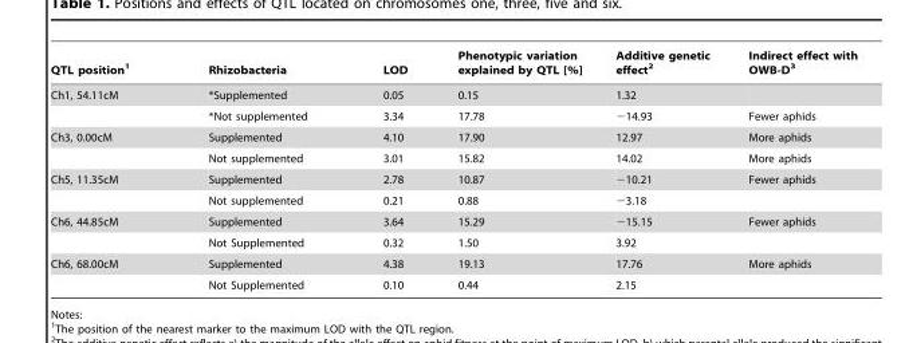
<table><thead><tr><td>QTL position<sup>1</sup></td><td>Rhizobacteria</td><td>LOD</td><td>Phenotypic variation explained by QTL [%]</td><td>Additive genetic effect<sup>2</sup></td><td>Indirect effect with OWB-D<sup>3</sup></td></tr></thead><tbody><tr><td rowspan="2">Ch1, 54.11cM</td><td>*Supplemented</td><td>0.05</td><td>0.15</td><td>1.32</td><td></td></tr><tr><td>*Not supplemented</td><td>3.34</td><td>17.78</td><td>−14.93</td><td>Fewer aphids</td></tr><tr><td rowspan="2">Ch3, 0.00cM</td><td>Supplemented</td><td>4.10</td><td>17.90</td><td>12.97</td><td>More aphids</td></tr><tr><td>Not supplemented</td><td>3.01</td><td>15.82</td><td>14.02</td><td>More aphids</td></tr><tr><td rowspan="2">Ch5, 11.35cM</td><td>Supplemented</td><td>2.78</td><td>10.87</td><td>−10.21</td><td>Fewer aphids</td></tr><tr><td>Not supplemented</td><td>0.21</td><td>0.88</td><td>−3.18</td><td></td></tr><tr><td rowspan="2">Ch6, 44.85cM</td><td>Supplemented</td><td>3.64</td><td>15.29</td><td>−15.15</td><td>Fewer aphids</td></tr><tr><td>Not Supplemented</td><td>0.32</td><td>1.50</td><td>3.92</td><td></td></tr><tr><td rowspan="2">Ch6, 68.00cM</td><td>Supplemented</td><td>4.38</td><td>19.13</td><td>17.76</td><td>More aphids</td></tr><tr><td>Not Supplemented</td><td>0.10</td><td>0.44</td><td>2.15</td><td></td></tr></tbody></table>